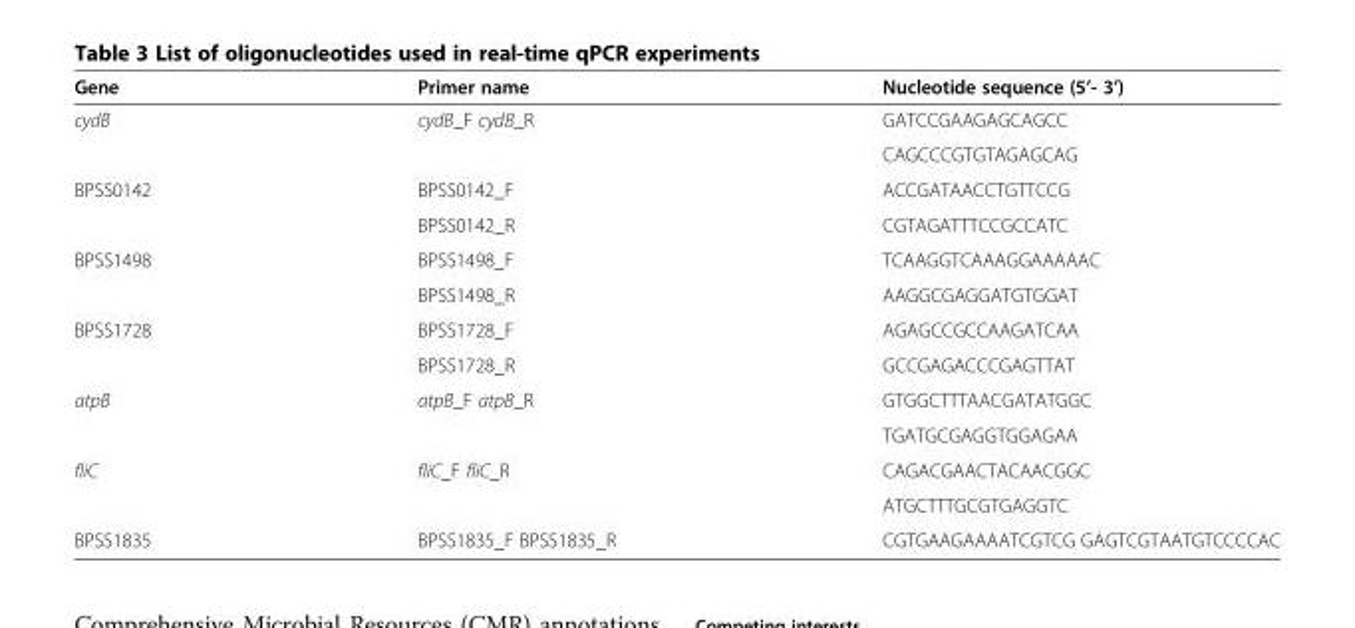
<table><thead><tr><td>Gene</td><td>Primer name</td><td>Nucleotide sequence (5’- 3’)</td></tr></thead><tbody><tr><td rowspan="2">cydB</td><td rowspan="2">cydB_F cydB_R</td><td>GATCCGAAGAGCAGCC</td></tr><tr><td>CAGCCCGTGTAGAGCAG</td></tr><tr><td rowspan="2">BPSS0142</td><td>BPSS0142_F</td><td>ACCGATAACCTGTTCCG</td></tr><tr><td>BPSS0142_R</td><td>CGTAGATTTCCGCCATC</td></tr><tr><td rowspan="2">BPSS1498</td><td>BPSS1498_F</td><td>TCAAGGTCAAAGGAAAAAC</td></tr><tr><td>BPSS1498_R</td><td>AAGGCGAGGATGTGGAT</td></tr><tr><td rowspan="2">BPSS1728</td><td>BPSS1728_F</td><td>AGAGCCGCCAAGATCAA</td></tr><tr><td>BPSS1728_R</td><td>GCCGAGACCCGAGTTAT</td></tr><tr><td rowspan="2">atpB</td><td rowspan="2">atpB_F atpB_R</td><td>GTGGCTTTAACGATATGGC</td></tr><tr><td>TGATGCGAGGTGGAGAA</td></tr><tr><td rowspan="2">fliC</td><td rowspan="2">fliC_F fliC_R</td><td>CAGACGAACTACAACGGC</td></tr><tr><td>ATGCTTTGCGTGAGGTC</td></tr><tr><td>BPSS1835</td><td>BPSS1835_F BPSS1835_R</td><td>CGTGAAGAAAATCGTCG GAGTCGTAATGTCCCCAC</td></tr></tbody></table>